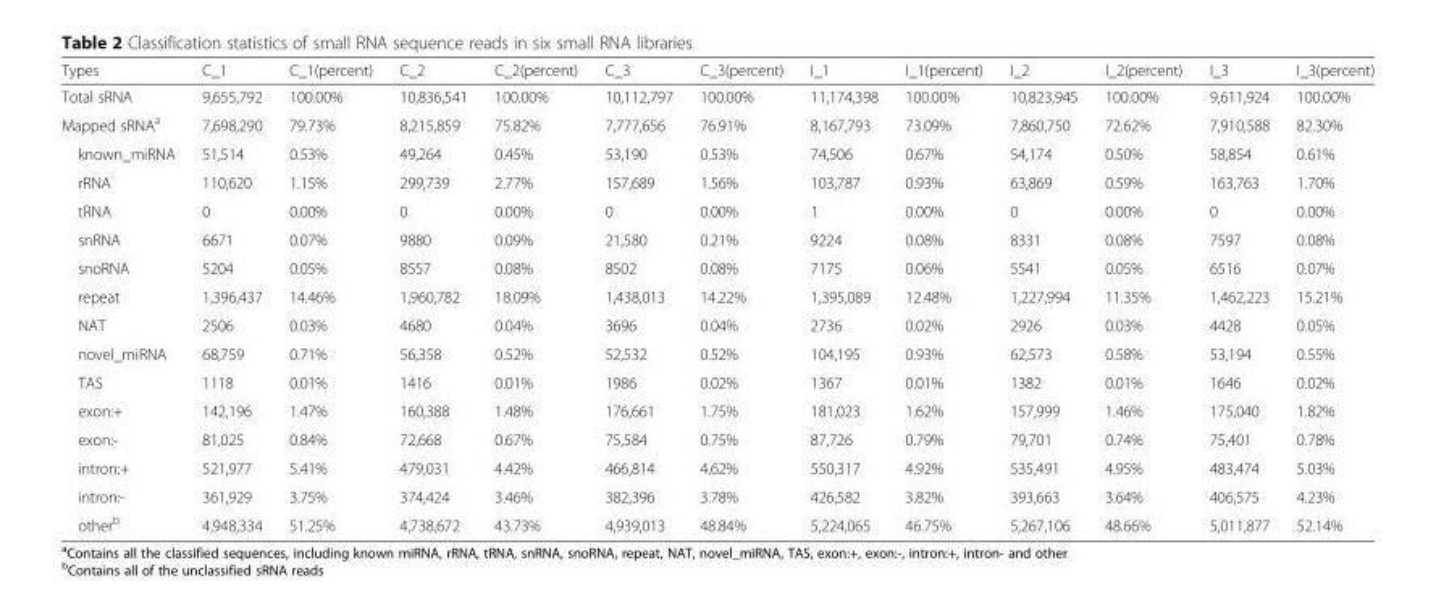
<table><thead><tr><td>Types</td><td>C_1</td><td>C_1(percent)</td><td>C_2</td><td>C_2(percent)</td><td>C_3</td><td>C_3(percent)</td><td>I_1</td><td>I_1(percent)</td><td>I_2</td><td>I_2(percent)</td><td>I_3</td><td>I_3(percent)</td></tr></thead><tbody><tr><td>Total sRNA</td><td>9,655,792</td><td>100.00%</td><td>10,836,541</td><td>100.00%</td><td>10,112,797</td><td>100.00%</td><td>11,174,398</td><td>100.00%</td><td>10,823,945</td><td>100.00%</td><td>9,611,924</td><td>100.00%</td></tr><tr><td>Mapped sRNA<sup>a</sup></td><td>7,698,290</td><td>79.73%</td><td>8,215,859</td><td>75.82%</td><td>7,777,656</td><td>76.91%</td><td>8,167,793</td><td>73.09%</td><td>7,860,750</td><td>72.62%</td><td>7,910,588</td><td>82.30%</td></tr><tr><td>known_miRNA</td><td>51,514</td><td>0.53%</td><td>49,264</td><td>0.45%</td><td>53,190</td><td>0.53%</td><td>74,506</td><td>0.67%</td><td>54,174</td><td>0.50%</td><td>58,854</td><td>0.61%</td></tr><tr><td>rRNA</td><td>110,620</td><td>1.15%</td><td>299,739</td><td>2.77%</td><td>157,689</td><td>1.56%</td><td>103,787</td><td>0.93%</td><td>63,869</td><td>0.59%</td><td>163,763</td><td>1.70%</td></tr><tr><td>tRNA</td><td>0</td><td>0.00%</td><td>0</td><td>0.00%</td><td>0</td><td>0.00%</td><td>1</td><td>0.00%</td><td>0</td><td>0.00%</td><td>0</td><td>0.00%</td></tr><tr><td>snRNA</td><td>6671</td><td>0.07%</td><td>9880</td><td>0.09%</td><td>21,580</td><td>0.21%</td><td>9224</td><td>0.08%</td><td>8331</td><td>0.08%</td><td>7597</td><td>0.08%</td></tr><tr><td>snoRNA</td><td>5204</td><td>0.05%</td><td>8557</td><td>0.08%</td><td>8502</td><td>0.08%</td><td>7175</td><td>0.06%</td><td>5541</td><td>0.05%</td><td>6516</td><td>0.07%</td></tr><tr><td>repeat</td><td>1,396,437</td><td>14.46%</td><td>1,960,782</td><td>18.09%</td><td>1,438,013</td><td>14.22%</td><td>1,395,089</td><td>12.48%</td><td>1,227,994</td><td>11.35%</td><td>1,462,223</td><td>15.21%</td></tr><tr><td>NAT</td><td>2506</td><td>0.03%</td><td>4680</td><td>0.04%</td><td>3696</td><td>0.04%</td><td>2736</td><td>0.02%</td><td>2926</td><td>0.03%</td><td>4428</td><td>0.05%</td></tr><tr><td>novel_miRNA</td><td>68,759</td><td>0.71%</td><td>56,358</td><td>0.52%</td><td>52,532</td><td>0.52%</td><td>104,195</td><td>0.93%</td><td>62,573</td><td>0.58%</td><td>53,194</td><td>0.55%</td></tr><tr><td>TAS</td><td>1118</td><td>0.01%</td><td>1416</td><td>0.01%</td><td>1986</td><td>0.02%</td><td>1367</td><td>0.01%</td><td>1382</td><td>0.01%</td><td>1646</td><td>0.02%</td></tr><tr><td>exon:+</td><td>142,196</td><td>1.47%</td><td>160,388</td><td>1.48%</td><td>176,661</td><td>1.75%</td><td>181,023</td><td>1.62%</td><td>157,999</td><td>1.46%</td><td>175,040</td><td>1.82%</td></tr><tr><td>exon:-</td><td>81,025</td><td>0.84%</td><td>72,668</td><td>0.67%</td><td>75,584</td><td>0.75%</td><td>87,726</td><td>0.79%</td><td>79,701</td><td>0.74%</td><td>75,401</td><td>0.78%</td></tr><tr><td>intron:+</td><td>521,977</td><td>5.41%</td><td>479,031</td><td>4.42%</td><td>466,814</td><td>4.62%</td><td>550,317</td><td>4.92%</td><td>535,491</td><td>4.95%</td><td>483,474</td><td>5.03%</td></tr><tr><td>intron:-</td><td>361,929</td><td>3.75%</td><td>374,424</td><td>3.46%</td><td>382,396</td><td>3.78%</td><td>426,582</td><td>3.82%</td><td>393,663</td><td>3.64%</td><td>406,575</td><td>4.23%</td></tr><tr><td>other<sup>b</sup></td><td>4,948,334</td><td>51.25%</td><td>4,738,672</td><td>43.73%</td><td>4,939,013</td><td>48.84%</td><td>5,224,065</td><td>46.75%</td><td>5,267,106</td><td>48.66%</td><td>5,011,877</td><td>52.14%</td></tr></tbody></table>